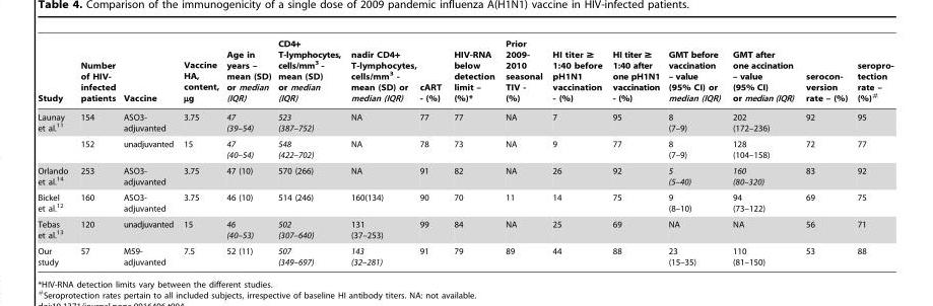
<table><thead><tr><td>Study</td><td>Number of HIV- infected patients</td><td>Vaccine</td><td>Vaccine HA, content, µg</td><td>Age in years – mean (SD) or median (IQR)</td><td>CD4+ T-lymphocytes, cells/mm<sup>3</sup> - mean (SD) or median (IQR)</td><td>nadir CD4+ T-lymphocytes, cells/mm<sup>3</sup> - mean (SD) or median (IQR)</td><td>cART - (%)</td><td>HIV-RNA below detection limit – (%)*</td><td>Prior 2009- 2010 seasonal TIV - (%)</td><td>HI titer ≥ 1:40 before pH1N1 vaccination - (%)</td><td>HI titer ≥ 1:40 after one pH1N1 vaccination - (%)</td><td>GMT before vaccination – value (95% CI) or median (IQR)</td><td>GMT after one accination – value (95% CI) or median (IQR)</td><td>serocon- version rate – (%)</td><td>seropro- tection rate – (%)#</td></tr></thead><tbody><tr><td rowspan="2">Launay et al.<sup>11</sup></td><td>154</td><td>ASO3- adjuvanted</td><td>3.75</td><td>47 (39–54)</td><td>523 (387–752)</td><td>NA</td><td>77</td><td>77</td><td>NA</td><td>7</td><td>95</td><td>8 (7–9)</td><td>202 (172–236)</td><td>92</td><td>95</td></tr><tr><td>152</td><td>unadjuvanted</td><td>15</td><td>47 (40–54)</td><td>548 (422–702)</td><td>NA</td><td>78</td><td>73</td><td>NA</td><td>9</td><td>77</td><td>8 (7–9)</td><td>128 (104–158)</td><td>72</td><td>77</td></tr><tr><td>Orlando et al.<sup>14</sup></td><td>253</td><td>ASO3- adjuvanted</td><td>3.75</td><td>47 (10)</td><td>570 (266)</td><td>NA</td><td>91</td><td>82</td><td>NA</td><td>26</td><td>92</td><td>5 (5–40)</td><td>160 (80–320)</td><td>83</td><td>92</td></tr><tr><td>Bickel et al.<sup>12</sup></td><td>160</td><td>ASO3- adjuvanted</td><td>3.75</td><td>46 (10)</td><td>514 (246)</td><td>160(134)</td><td>90</td><td>70</td><td>11</td><td>14</td><td>75</td><td>9 (8–10)</td><td>94 (73–122)</td><td>69</td><td>75</td></tr><tr><td>Tebas et al.<sup>13</sup></td><td>120</td><td>unadjuvanted</td><td>15</td><td>46 (40–53)</td><td>502 (307–640)</td><td>131 (37–253)</td><td>99</td><td>84</td><td>NA</td><td>25</td><td>69</td><td>NA</td><td>NA</td><td>56</td><td>71</td></tr><tr><td>Our study</td><td>57</td><td>M59- adjuvanted</td><td>7.5</td><td>52 (11)</td><td>507 (349–697)</td><td>143 (32–281)</td><td>91</td><td>79</td><td>89</td><td>44</td><td>88</td><td>23 (15–35)</td><td>110 (81–150)</td><td>53</td><td>88</td></tr></tbody></table>